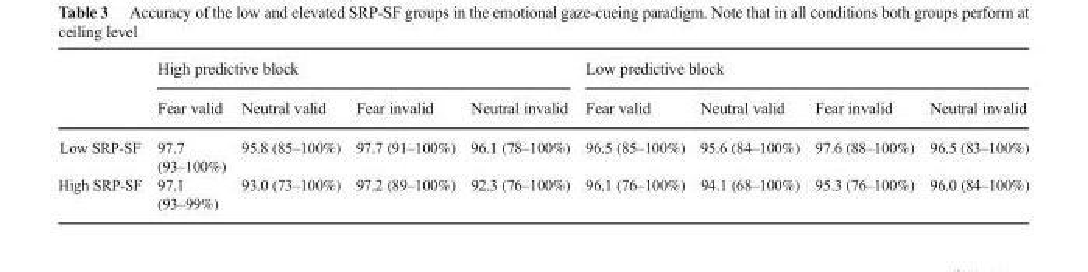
<table><thead><tr><td rowspan="2"></td><td colspan="4">High predictive block</td><td colspan="4">Low predictive block</td></tr><tr><td>Fear valid</td><td>Neutral valid</td><td>Fear invalid</td><td>Neutral invalid</td><td>Fear valid</td><td>Neutral valid</td><td>Fear invalid</td><td>Neutral invalid</td></tr></thead><tbody><tr><td>Low SRP-SF</td><td>97.7 (93–100%)</td><td>95.8 (85–100%)</td><td>97.7 (91–100%)</td><td>96.1 (78–100%)</td><td>96.5 (85–100%)</td><td>95.6 (84–100%)</td><td>97.6 (88–100%)</td><td>96.5 (83–100%)</td></tr><tr><td>High SRP-SF</td><td>97.1 (93–99%)</td><td>93.0 (73–100%)</td><td>97.2 (89–100%)</td><td>92.3 (76–100%)</td><td>96.1 (76–100%)</td><td>94.1 (68–100%)</td><td>95.3 (76–100%)</td><td>96.0 (84–100%)</td></tr></tbody></table>